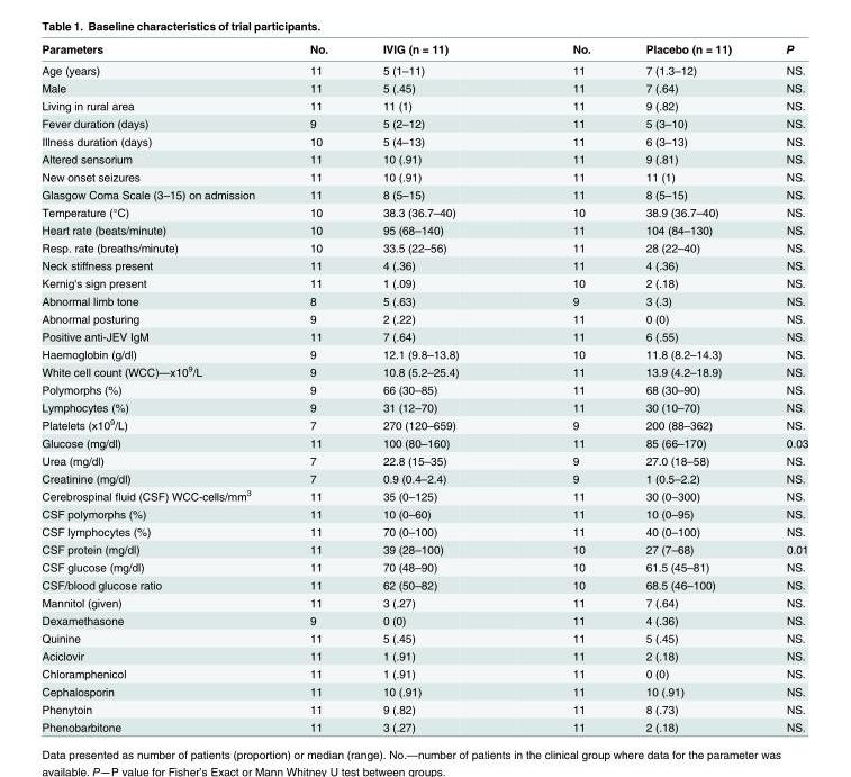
<table><thead><tr><td>Parameters</td><td>No.</td><td>IVIG (n = 11)</td><td>No.</td><td>Placebo (n = 11)</td><td>P</td></tr></thead><tbody><tr><td>Age (years)</td><td>11</td><td>5 (1–11)</td><td>11</td><td>7 (1.3–12)</td><td>NS.</td></tr><tr><td>Male</td><td>11</td><td>5 (.45)</td><td>11</td><td>7 (.64)</td><td>NS.</td></tr><tr><td>Living in rural area</td><td>11</td><td>11 (1)</td><td>11</td><td>9 (.82)</td><td>NS.</td></tr><tr><td>Fever duration (days)</td><td>9</td><td>5 (2–12)</td><td>11</td><td>5 (3–10)</td><td>NS.</td></tr><tr><td>Illness duration (days)</td><td>10</td><td>5 (4–13)</td><td>11</td><td>6 (3–13)</td><td>NS.</td></tr><tr><td>Altered sensorium</td><td>11</td><td>10 (.91)</td><td>11</td><td>9 (.81)</td><td>NS.</td></tr><tr><td>New onset seizures</td><td>11</td><td>10 (.91)</td><td>11</td><td>11 (1)</td><td>NS.</td></tr><tr><td>Glasgow Coma Scale (3–15) on admission</td><td>11</td><td>8 (5–15)</td><td>11</td><td>8 (5–15)</td><td>NS.</td></tr><tr><td>Temperature (°C)</td><td>10</td><td>38.3 (36.7–40)</td><td>10</td><td>38.9 (36.7–40)</td><td>NS.</td></tr><tr><td>Heart rate (beats/minute)</td><td>10</td><td>95 (68–140)</td><td>11</td><td>104 (84–130)</td><td>NS.</td></tr><tr><td>Resp. rate (breaths/minute)</td><td>10</td><td>33.5 (22–56)</td><td>11</td><td>28 (22–40)</td><td>NS.</td></tr><tr><td>Neck stiffness present</td><td>11</td><td>4 (.36)</td><td>11</td><td>4 (.36)</td><td>NS.</td></tr><tr><td>Kernig&#x27;s sign present</td><td>11</td><td>1 (.09)</td><td>10</td><td>2 (.18)</td><td>NS.</td></tr><tr><td>Abnormal limb tone</td><td>8</td><td>5 (.63)</td><td>9</td><td>3 (.3)</td><td>NS.</td></tr><tr><td>Abnormal posturing</td><td>9</td><td>2 (.22)</td><td>11</td><td>0 (0)</td><td>NS.</td></tr><tr><td>Positive anti-JEV IgM</td><td>11</td><td>7 (.64)</td><td>11</td><td>6 (.55)</td><td>NS.</td></tr><tr><td>Haemoglobin (g/dl)</td><td>9</td><td>12.1 (9.8–13.8)</td><td>10</td><td>11.8 (8.2–14.3)</td><td>NS.</td></tr><tr><td>White cell count (WCC)—x10<sup>9</sup>/L</td><td>9</td><td>10.8 (5.2–25.4)</td><td>11</td><td>13.9 (4.2–18.9)</td><td>NS.</td></tr><tr><td>Polymorphs (%)</td><td>9</td><td>66 (30–85)</td><td>11</td><td>68 (30–90)</td><td>NS.</td></tr><tr><td>Lymphocytes (%)</td><td>9</td><td>31 (12–70)</td><td>11</td><td>30 (10–70)</td><td>NS.</td></tr><tr><td>Platelets (x10<sup>9</sup>/L)</td><td>7</td><td>270 (120–659)</td><td>9</td><td>200 (88–362)</td><td>NS.</td></tr><tr><td>Glucose (mg/dl)</td><td>11</td><td>100 (80–160)</td><td>11</td><td>85 (66–170)</td><td>0.03</td></tr><tr><td>Urea (mg/dl)</td><td>7</td><td>22.8 (15–35)</td><td>9</td><td>27.0 (18–58)</td><td>NS.</td></tr><tr><td>Creatinine (mg/dl)</td><td>7</td><td>0.9 (0.4–2.4)</td><td>9</td><td>1 (0.5–2.2)</td><td>NS.</td></tr><tr><td>Cerebrospinal fluid (CSF) WCC-cells/mm<sup>3</sup></td><td>11</td><td>35 (0–125)</td><td>11</td><td>30 (0–300)</td><td>NS.</td></tr><tr><td>CSF polymorphs (%)</td><td>11</td><td>10 (0–60)</td><td>11</td><td>10 (0–95)</td><td>NS.</td></tr><tr><td>CSF lymphocytes (%)</td><td>11</td><td>70 (0–100)</td><td>11</td><td>40 (0–100)</td><td>NS.</td></tr><tr><td>CSF protein (mg/dl)</td><td>11</td><td>39 (28–100)</td><td>10</td><td>27 (7–68)</td><td>0.01</td></tr><tr><td>CSF glucose (mg/dl)</td><td>11</td><td>70 (48–90)</td><td>10</td><td>61.5 (45–81)</td><td>NS.</td></tr><tr><td>CSF/blood glucose ratio</td><td>11</td><td>62 (50–82)</td><td>10</td><td>68.5 (46–100)</td><td>NS.</td></tr><tr><td>Mannitol (given)</td><td>11</td><td>3 (.27)</td><td>11</td><td>7 (.64)</td><td>NS.</td></tr><tr><td>Dexamethasone</td><td>9</td><td>0 (0)</td><td>11</td><td>4 (.36)</td><td>NS.</td></tr><tr><td>Quinine</td><td>11</td><td>5 (.45)</td><td>11</td><td>5 (.45)</td><td>NS.</td></tr><tr><td>Aciclovir</td><td>11</td><td>1 (.91)</td><td>11</td><td>2 (.18)</td><td>NS.</td></tr><tr><td>Chloramphenicol</td><td>11</td><td>1 (.91)</td><td>11</td><td>0 (0)</td><td>NS.</td></tr><tr><td>Cephalosporin</td><td>11</td><td>10 (.91)</td><td>11</td><td>10 (.91)</td><td>NS.</td></tr><tr><td>Phenytoin</td><td>11</td><td>9 (.82)</td><td>11</td><td>8 (.73)</td><td>NS.</td></tr><tr><td>Phenobarbitone</td><td>11</td><td>3 (.27)</td><td>11</td><td>2 (.18)</td><td>NS.</td></tr></tbody></table>